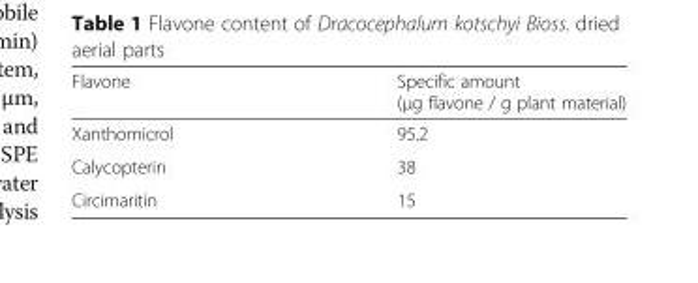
<table><thead><tr><td>Flavone</td><td>Specific amount (μg flavone / g plant material)</td></tr></thead><tbody><tr><td>Xanthomicrol</td><td>95.2</td></tr><tr><td>Calycopterin</td><td>38</td></tr><tr><td>Circimaritin</td><td>15</td></tr></tbody></table>